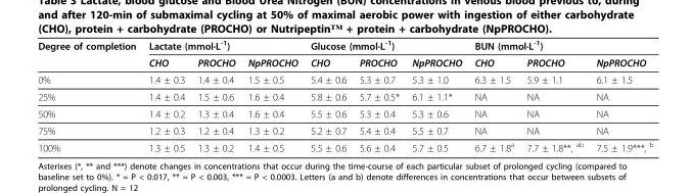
<table><thead><tr><td rowspan="2">Degree of completion</td><td colspan="3">Lactate (mmol·L<sup>-1</sup>)</td><td colspan="3">Glucose (mmol·L<sup>-1</sup>)</td><td colspan="3">BUN (mmol·L<sup>-1</sup>)</td></tr><tr><td>CHO</td><td>PROCHO</td><td>NpPROCHO</td><td>CHO</td><td>PROCHO</td><td>NpPROCHO</td><td>CHO</td><td>PROCHO</td><td>NpPROCHO</td></tr></thead><tbody><tr><td>0%</td><td>1.4 ± 0.3</td><td>1.4 ± 0.4</td><td>1.5 ± 0.5</td><td>5.4 ± 0.6</td><td>5.3 ± 0.7</td><td>5.3 ± 1.0</td><td>6.3 ± 1.5</td><td>5.9 ± 1.1</td><td>6.1 ± 1.5</td></tr><tr><td>25%</td><td>1.4 ± 0.4</td><td>1.5 ± 0.6</td><td>1.6 ± 0.4</td><td>5.8 ± 0.6</td><td>5.7 ± 0.5*</td><td>6.1 ± 1.1*</td><td>NA</td><td>NA</td><td>NA</td></tr><tr><td>50%</td><td>1.4 ± 0.2</td><td>1.3 ± 0.4</td><td>1.6 ± 0.4</td><td>5.5 ± 0.6</td><td>5.3 ± 0.4</td><td>5.3 ± 0.6</td><td>NA</td><td>NA</td><td>NA</td></tr><tr><td>75%</td><td>1.2 ± 0.3</td><td>1.2 ± 0.4</td><td>1.3 ± 0.2</td><td>5.2 ± 0.7</td><td>5.4 ± 0.4</td><td>5.5 ± 0.7</td><td>NA</td><td>NA</td><td>NA</td></tr><tr><td>100%</td><td>1.3 ± 0.5</td><td>1.3 ± 0.2</td><td>1.4 ± 0.5</td><td>5.5 ± 0.6</td><td>5.6 ± 0.4</td><td>5.7 ± 0.5</td><td>6.7 ± 1.8<sup>a</sup></td><td>7.7 ± 1.8**, <sup>ab</sup></td><td>7.5 ± 1.9***, <sup>b</sup></td></tr></tbody></table>